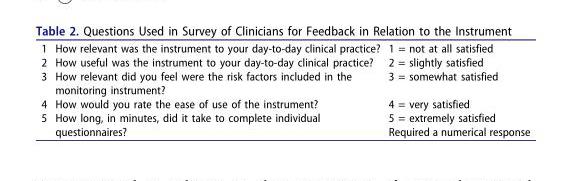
<table><tbody><tr><td>1</td><td>How relevant was the instrument to your day-to-day clinical practice?</td><td>1 = not at all satisfied</td></tr><tr><td>2</td><td>How useful was the instrument to your day-to-day clinical practice?</td><td>2 = slightly satisfied</td></tr><tr><td>3</td><td>How relevant did you feel were the risk factors included in the monitoring instrument?</td><td>3 = somewhat satisfied</td></tr><tr><td>4</td><td>How would you rate the ease of use of the instrument?</td><td>4 = very satisfied</td></tr><tr><td>5</td><td>How long, in minutes, did it take to complete individual questionnaires?</td><td>5 = extremely satisfied Required a numerical response</td></tr></tbody></table>